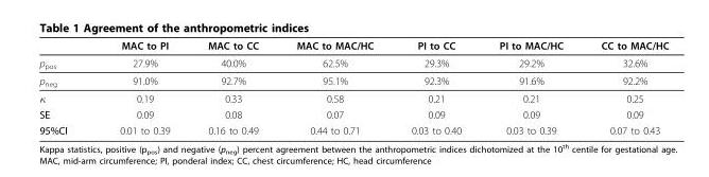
<table><thead><tr><td></td><td>MAC to PI</td><td>MAC to CC</td><td>MAC to MAC/HC</td><td>PI to CC</td><td>PI to MAC/HC</td><td>CC to MAC/HC</td></tr></thead><tbody><tr><td>p<sub>pos</sub></td><td>27.9%</td><td>40.0%</td><td>62.5%</td><td>29.3%</td><td>29.2%</td><td>32.6%</td></tr><tr><td>p<sub>neg</sub></td><td>91.0%</td><td>92.7%</td><td>95.1%</td><td>92.3%</td><td>91.6%</td><td>92.2%</td></tr><tr><td>κ</td><td>0.19</td><td>0.33</td><td>0.58</td><td>0.21</td><td>0.21</td><td>0.25</td></tr><tr><td>SE</td><td>0.09</td><td>0.08</td><td>0.07</td><td>0.09</td><td>0.09</td><td>0.09</td></tr><tr><td>95%CI</td><td>0.01 to 0.39</td><td>0.16 to 0.49</td><td>0.44 to 0.71</td><td>0.03 to 0.40</td><td>0.03 to 0.39</td><td>0.07 to 0.43</td></tr></tbody></table>